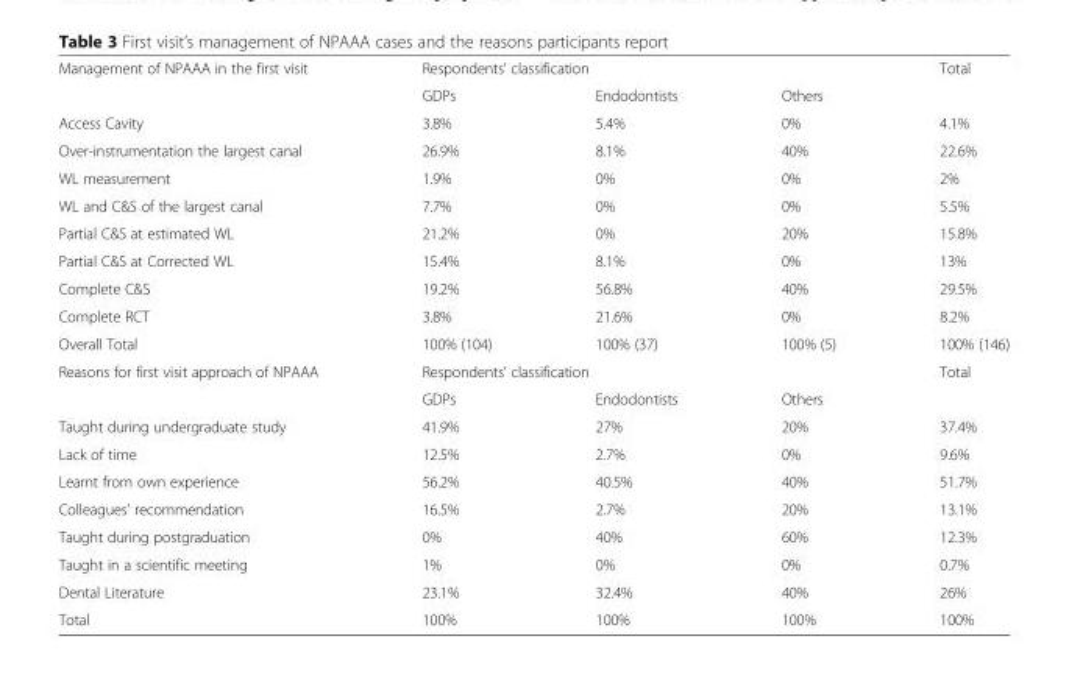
<table><tbody><tr><td rowspan="2">Management of NPAAA in the first visit</td><td colspan="3">Respondents’ classification</td><td rowspan="2">Total</td></tr><tr><td>GDPs</td><td>Endodontists</td><td>Others</td></tr><tr><td>Access Cavity</td><td>3.8%</td><td>5.4%</td><td>0%</td><td>4.1%</td></tr><tr><td>Over-instrumentation the largest canal</td><td>26.9%</td><td>8.1%</td><td>40%</td><td>22.6%</td></tr><tr><td>WL measurement</td><td>1.9%</td><td>0%</td><td>0%</td><td>2%</td></tr><tr><td>WL and C&amp;S of the largest canal</td><td>7.7%</td><td>0%</td><td>0%</td><td>5.5%</td></tr><tr><td>Partial C&amp;S at estimated WL</td><td>21.2%</td><td>0%</td><td>20%</td><td>15.8%</td></tr><tr><td>Partial C&amp;S at Corrected WL</td><td>15.4%</td><td>8.1%</td><td>0%</td><td>13%</td></tr><tr><td>Complete C&amp;S</td><td>19.2%</td><td>56.8%</td><td>40%</td><td>29.5%</td></tr><tr><td>Complete RCT</td><td>3.8%</td><td>21.6%</td><td>0%</td><td>8.2%</td></tr><tr><td>Overall Total</td><td>100% (104)</td><td>100% (37)</td><td>100% (5)</td><td>100% (146)</td></tr><tr><td rowspan="2">Reasons for first visit approach of NPAAA</td><td colspan="3">Respondents’ classification</td><td rowspan="2">Total</td></tr><tr><td>GDPs</td><td>Endodontists</td><td>Others</td></tr><tr><td>Taught during undergraduate study</td><td>41.9%</td><td>27%</td><td>20%</td><td>37.4%</td></tr><tr><td>Lack of time</td><td>12.5%</td><td>2.7%</td><td>0%</td><td>9.6%</td></tr><tr><td>Learnt from own experience</td><td>56.2%</td><td>40.5%</td><td>40%</td><td>51.7%</td></tr><tr><td>Colleagues’ recommendation</td><td>16.5%</td><td>2.7%</td><td>20%</td><td>13.1%</td></tr><tr><td>Taught during postgraduation</td><td>0%</td><td>40%</td><td>60%</td><td>12.3%</td></tr><tr><td>Taught in a scientific meeting</td><td>1%</td><td>0%</td><td>0%</td><td>0.7%</td></tr><tr><td>Dental Literature</td><td>23.1%</td><td>32.4%</td><td>40%</td><td>26%</td></tr><tr><td>Total</td><td>100%</td><td>100%</td><td>100%</td><td>100%</td></tr></tbody></table>